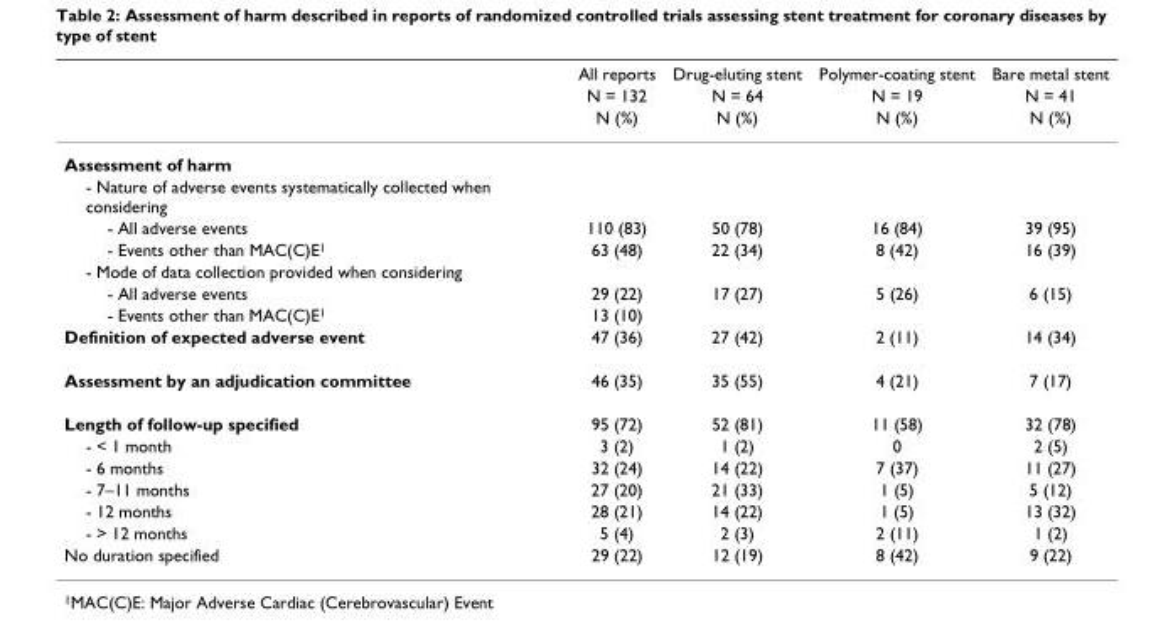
<table><thead><tr><td rowspan="3"></td><td rowspan="3">All reports N = 132 N (%)</td><td rowspan="3">Drug-eluting stent N = 64 N (%)</td><td rowspan="3">Polymer-coating stent N = 19 N (%)</td><td rowspan="3">Bare metal stent N = 41 N (%)</td></tr><tr></tr><tr></tr></thead><tbody><tr><td colspan="5">Assessment of harm</td></tr><tr><td colspan="5">- Nature of adverse events systematically collected when considering</td></tr><tr><td>- All adverse events</td><td>110 (83)</td><td>50 (78)</td><td>16 (84)</td><td>39 (95)</td></tr><tr><td>- Events other than MAC(C)E<sup>1</sup></td><td>63 (48)</td><td>22 (34)</td><td>8 (42)</td><td>16 (39)</td></tr><tr><td colspan="5">- Mode of data collection provided when considering</td></tr><tr><td>- All adverse events</td><td>29 (22)</td><td>17 (27)</td><td>5 (26)</td><td>6 (15)</td></tr><tr><td>- Events other than MAC(C)E<sup>1</sup></td><td>13 (10)</td><td></td><td></td><td></td></tr><tr><td>Definition of expected adverse event</td><td>47 (36)</td><td>27 (42)</td><td>2 (11)</td><td>14 (34)</td></tr><tr><td>Assessment by an adjudication committee</td><td>46 (35)</td><td>35 (55)</td><td>4 (21)</td><td>7 (17)</td></tr><tr><td>Length of follow-up specified</td><td>95 (72)</td><td>52 (81)</td><td>11 (58)</td><td>32 (78)</td></tr><tr><td>- &lt; 1 month</td><td>3 (2)</td><td>1 (2)</td><td>0</td><td>2 (5)</td></tr><tr><td>- 6 months</td><td>32 (24)</td><td>14 (22)</td><td>7 (37)</td><td>11 (27)</td></tr><tr><td>- 7–11 months</td><td>27 (20)</td><td>21 (33)</td><td>1 (5)</td><td>5 (12)</td></tr><tr><td>- 12 months</td><td>28 (21)</td><td>14 (22)</td><td>1 (5)</td><td>13 (32)</td></tr><tr><td>- &gt; 12 months</td><td>5 (4)</td><td>2 (3)</td><td>2 (11)</td><td>1 (2)</td></tr><tr><td>No duration specified</td><td>29 (22)</td><td>12 (19)</td><td>8 (42)</td><td>9 (22)</td></tr></tbody></table>